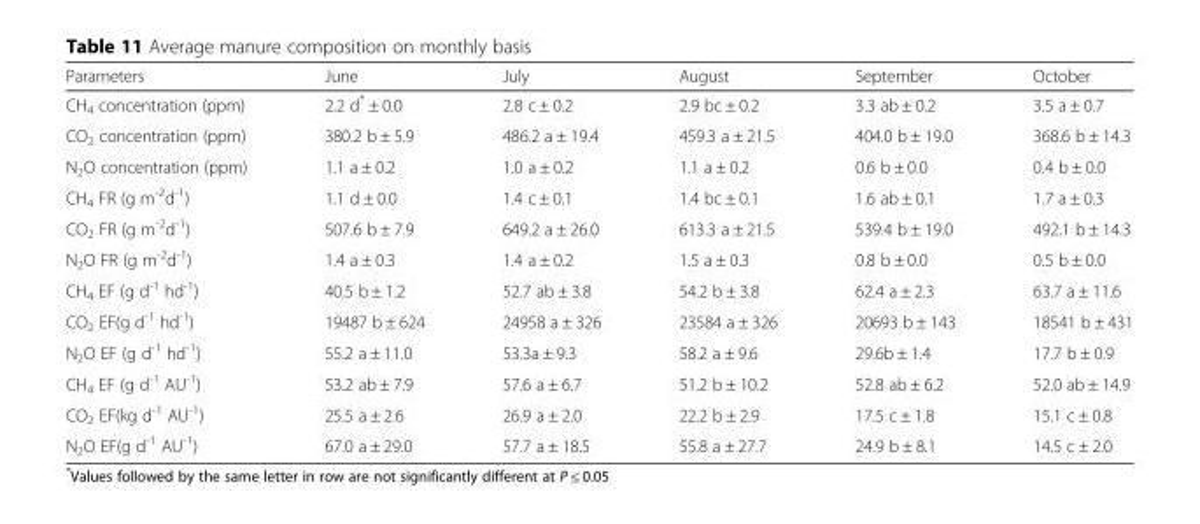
<table><thead><tr><td>Parameters</td><td>June</td><td>July</td><td>August</td><td>September</td><td>October</td></tr></thead><tbody><tr><td>CH<sub>4</sub> concentration (ppm)</td><td>2.2 d* ± 0.0</td><td>2.8 c ± 0.2</td><td>2.9 bc ± 0.2</td><td>3.3 ab ± 0.2</td><td>3.5 a ± 0.7</td></tr><tr><td>CO<sub>2</sub> concentration (ppm)</td><td>380.2 b ± 5.9</td><td>486.2 a ± 19.4</td><td>459.3 a ± 21.5</td><td>404.0 b ± 19.0</td><td>368.6 b ± 14.3</td></tr><tr><td>N<sub>2</sub>O concentration (ppm)</td><td>1.1 a ± 0.2</td><td>1.0 a ± 0.2</td><td>1.1 a ± 0.2</td><td>0.6 b ± 0.0</td><td>0.4 b ± 0.0</td></tr><tr><td>CH<sub>4</sub> FR (g m<sup>-2</sup>d<sup>-1</sup>)</td><td>1.1 d ± 0.0</td><td>1.4 c ± 0.1</td><td>1.4 bc ± 0.1</td><td>1.6 ab ± 0.1</td><td>1.7 a ± 0.3</td></tr><tr><td>CO<sub>2</sub> FR (g m<sup>-2</sup>d<sup>-1</sup>)</td><td>507.6 b ± 7.9</td><td>649.2 a ± 26.0</td><td>613.3 a ± 21.5</td><td>539.4 b ± 19.0</td><td>492.1 b ± 14.3</td></tr><tr><td>N<sub>2</sub>O FR (g m<sup>-2</sup>d<sup>-1</sup>)</td><td>1.4 a ± 0.3</td><td>1.4 a ± 0.2</td><td>1.5 a ± 0.3</td><td>0.8 b ± 0.0</td><td>0.5 b ± 0.0</td></tr><tr><td>CH<sub>4</sub> EF (g d<sup>-1</sup> hd<sup>-1</sup>)</td><td>40.5 b ± 1.2</td><td>52.7 ab ± 3.8</td><td>54.2 b ± 3.8</td><td>62.4 a ± 2.3</td><td>63.7 a ± 11.6</td></tr><tr><td>CO<sub>2</sub> EF(g d<sup>-1</sup> hd<sup>-1</sup>)</td><td>19487 b ± 624</td><td>24958 a ± 326</td><td>23584 a ± 326</td><td>20693 b ± 143</td><td>18541 b ± 431</td></tr><tr><td>N<sub>2</sub>O EF (g d<sup>-1</sup> hd<sup>-1</sup>)</td><td>55.2 a ± 11.0</td><td>53.3a ± 9.3</td><td>58.2 a ± 9.6</td><td>29.6b ± 1.4</td><td>17.7 b ± 0.9</td></tr><tr><td>CH<sub>4</sub> EF (g d<sup>-1</sup> AU<sup>-1</sup>)</td><td>53.2 ab ± 7.9</td><td>57.6 a ± 6.7</td><td>51.2 b ± 10.2</td><td>52.8 ab ± 6.2</td><td>52.0 ab ± 14.9</td></tr><tr><td>CO<sub>2</sub> EF(kg d<sup>-1</sup> AU<sup>-1</sup>)</td><td>25.5 a ± 2.6</td><td>26.9 a ± 2.0</td><td>22.2 b ± 2.9</td><td>17.5 c ± 1.8</td><td>15.1 c ± 0.8</td></tr><tr><td>N<sub>2</sub>O EF(g d<sup>-1</sup> AU<sup>-1</sup>)</td><td>67.0 a ± 29.0</td><td>57.7 a ± 18.5</td><td>55.8 a ± 27.7</td><td>24.9 b ± 8.1</td><td>14.5 c ± 2.0</td></tr></tbody></table>